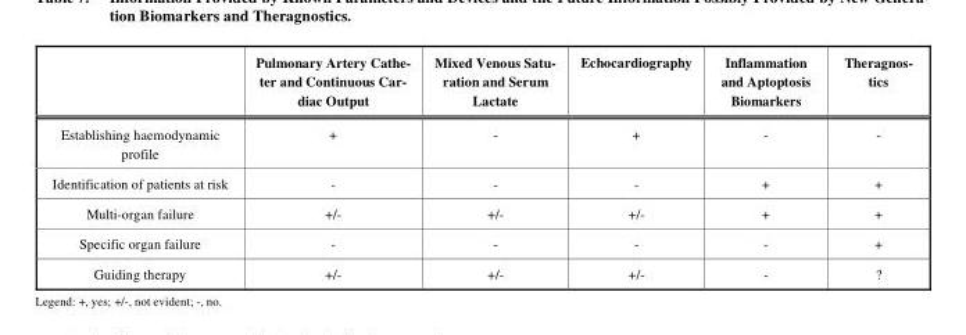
<table><thead><tr><td></td><td>Pulmonary Artery Cathe- ter and Continuous Car- diac Output</td><td>Mixed Venous Satu- ration and Serum Lactate</td><td>Echocardiography</td><td>Inflammation and Aptoptosis Biomarkers</td><td>Theragnos- tics</td></tr></thead><tbody><tr><td>Establishing haemodynamic profile</td><td>+</td><td>-</td><td>+</td><td>-</td><td>-</td></tr><tr><td>Identification of patients at risk</td><td>-</td><td>-</td><td>-</td><td>+</td><td>+</td></tr><tr><td>Multi-organ failure</td><td>+/-</td><td>+/-</td><td>+/-</td><td>+</td><td>+</td></tr><tr><td>Specific organ failure</td><td>-</td><td>-</td><td>-</td><td>-</td><td>+</td></tr><tr><td>Guiding therapy</td><td>+/-</td><td>+/-</td><td>+/-</td><td>-</td><td>?</td></tr></tbody></table>